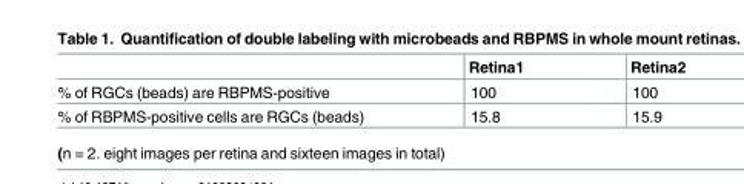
<table><thead><tr><td></td><td>Retina1</td><td>Retina2</td></tr></thead><tbody><tr><td>% of RGCs (beads) are RBPMS-positive</td><td>100</td><td>100</td></tr><tr><td>% of RBPMS-positive cells are RGCs (beads)</td><td>15.8</td><td>15.9</td></tr></tbody></table>